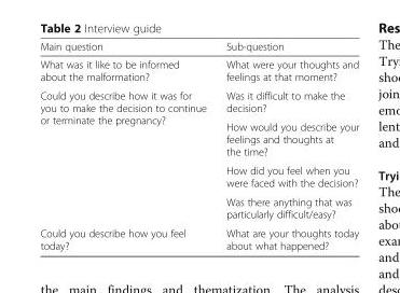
<table><thead><tr><td>Main question</td><td>Sub-question</td></tr></thead><tbody><tr><td>What was it like to be informed about the malformation?</td><td>What were your thoughts and feelings at that moment?</td></tr><tr><td rowspan="4">Could you describe how it was for you to make the decision to continue or terminate the pregnancy?</td><td>Was it difficult to make the decision?</td></tr><tr><td>How would you describe your feelings and thoughts at the time?</td></tr><tr><td>How did you feel when you were faced with the decision?</td></tr><tr><td>Was there anything that was particularly difficult/easy?</td></tr><tr><td>Could you describe how you feel today?</td><td>What are your thoughts today about what happened?</td></tr></tbody></table>